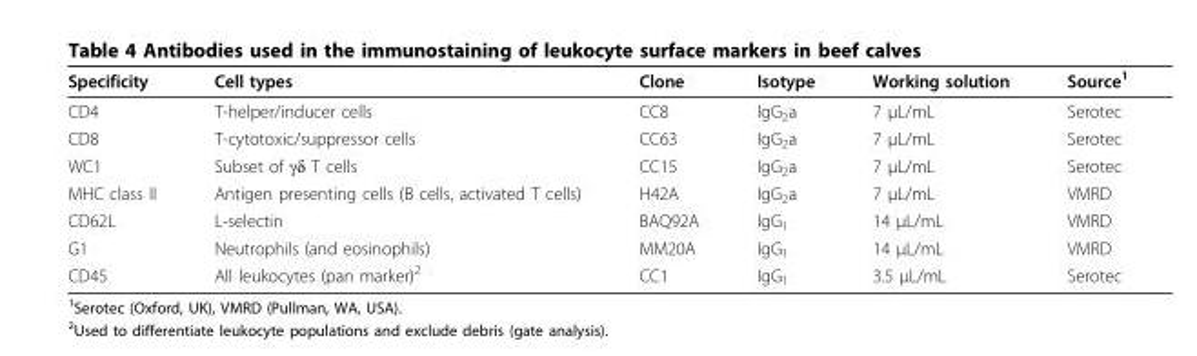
<table><thead><tr><td>Specificity</td><td>Cell types</td><td>Clone</td><td>Isotype</td><td>Working solution</td><td>Source<sup>1</sup></td></tr></thead><tbody><tr><td>CD4</td><td>T-helper/inducer cells</td><td>CC8</td><td>IgG<sub>2</sub>a</td><td>7 μL/mL</td><td>Serotec</td></tr><tr><td>CD8</td><td>T-cytotoxic/suppressor cells</td><td>CC63</td><td>IgG<sub>2</sub>a</td><td>7 μL/mL</td><td>Serotec</td></tr><tr><td>WC1</td><td>Subset of γδ T cells</td><td>CC15</td><td>IgG<sub>2</sub>a</td><td>7 μL/mL</td><td>Serotec</td></tr><tr><td>MHC class II</td><td>Antigen presenting cells (B cells, activated T cells)</td><td>H42A</td><td>IgG<sub>2</sub>a</td><td>7 μL/mL</td><td>VMRD</td></tr><tr><td>CD62L</td><td>L-selectin</td><td>BAQ92A</td><td>IgG<sub>1</sub></td><td>14 μL/mL</td><td>VMRD</td></tr><tr><td>G1</td><td>Neutrophils (and eosinophils)</td><td>MM20A</td><td>IgG<sub>1</sub></td><td>14 μL/mL</td><td>VMRD</td></tr><tr><td>CD45</td><td>All leukocytes (pan marker)<sup>2</sup></td><td>CC1</td><td>IgG<sub>1</sub></td><td>3.5 μL/mL</td><td>Serotec</td></tr></tbody></table>